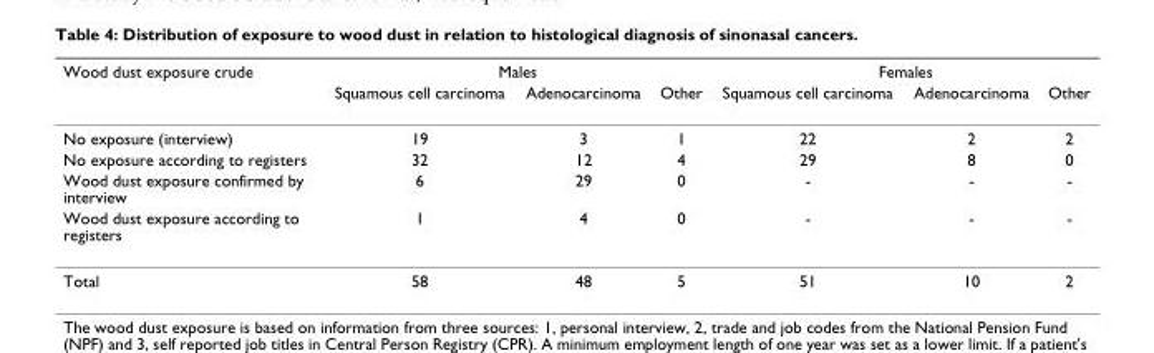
<table><thead><tr><td rowspan="2">Wood dust exposure crude</td><td colspan="3">Males</td><td colspan="3">Females</td></tr><tr><td>Squamous cell carcinoma</td><td>Adenocarcinoma</td><td>Other</td><td>Squamous cell carcinoma</td><td>Adenocarcinoma</td><td>Other</td></tr></thead><tbody><tr><td>No exposure (interview)</td><td>19</td><td>3</td><td>1</td><td>22</td><td>2</td><td>2</td></tr><tr><td>No exposure according to registers</td><td>32</td><td>12</td><td>4</td><td>29</td><td>8</td><td>0</td></tr><tr><td>Wood dust exposure confirmed by interview</td><td>6</td><td>29</td><td>0</td><td>-</td><td>-</td><td>-</td></tr><tr><td>Wood dust exposure according to registers</td><td>1</td><td>4</td><td>0</td><td>-</td><td>-</td><td>-</td></tr><tr><td>Total</td><td>58</td><td>48</td><td>5</td><td>51</td><td>10</td><td>2</td></tr></tbody></table>